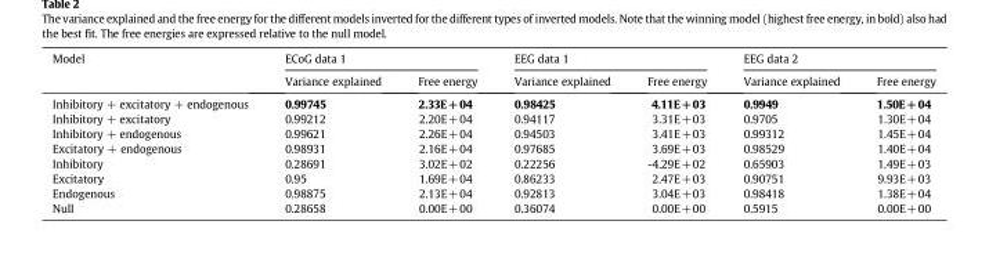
<table><thead><tr><td rowspan="2">Model</td><td colspan="2">ECoG data 1</td><td colspan="2">EEG data 1</td><td colspan="2">EEG data 2</td></tr><tr><td>Variance explained</td><td>Free energy</td><td>Variance explained</td><td>Free energy</td><td>Variance explained</td><td>Free energy</td></tr></thead><tbody><tr><td>Inhibitory + excitatory + endogenous</td><td>0.99745</td><td>2.33E+04</td><td>0.98425</td><td>4.11E+03</td><td>0.9949</td><td>1.50E+04</td></tr><tr><td>Inhibitory + excitatory</td><td>0.99212</td><td>2.20E+04</td><td>0.94117</td><td>3.31E+03</td><td>0.9705</td><td>1.30E+04</td></tr><tr><td>Inhibitory + endogenous</td><td>0.99621</td><td>2.26E+04</td><td>0.94503</td><td>3.41E+03</td><td>0.99312</td><td>1.45E+04</td></tr><tr><td>Excitatory + endogenous</td><td>0.98931</td><td>2.16E+04</td><td>0.97685</td><td>3.69E+03</td><td>0.98529</td><td>1.40E+04</td></tr><tr><td>Inhibitory</td><td>0.28691</td><td>3.02E+02</td><td>0.22256</td><td>-4.29E+02</td><td>0.65903</td><td>1.49E+03</td></tr><tr><td>Excitatory</td><td>0.95</td><td>1.69E+04</td><td>0.86233</td><td>2.47E+03</td><td>0.90751</td><td>9.93E+03</td></tr><tr><td>Endogenous</td><td>0.98875</td><td>2.13E+04</td><td>0.92813</td><td>3.04E+03</td><td>0.98418</td><td>1.38E+04</td></tr><tr><td>Null</td><td>0.28658</td><td>0.00E+00</td><td>0.36074</td><td>0.00E+00</td><td>0.5915</td><td>0.00E+00</td></tr></tbody></table>